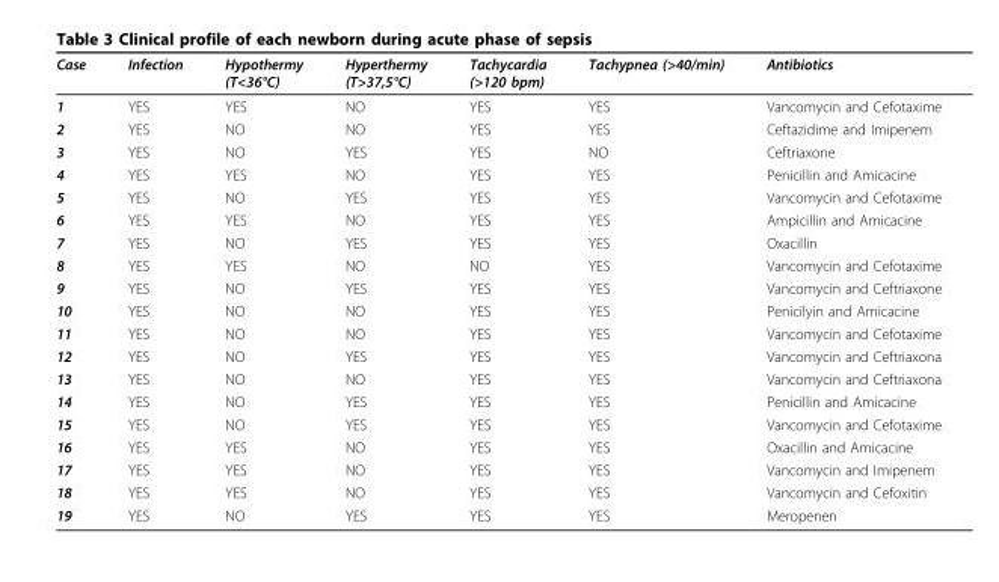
<table><thead><tr><td>Case</td><td>Infection</td><td>Hypothermy (T&lt;36°C)</td><td>Hyperthermy (T&gt;37,5°C)</td><td>Tachycardia (&gt;120 bpm)</td><td>Tachypnea (&gt;40/min)</td><td>Antibiotics</td></tr></thead><tbody><tr><td>1</td><td>YES</td><td>YES</td><td>NO</td><td>YES</td><td>YES</td><td>Vancomycin and Cefotaxime</td></tr><tr><td>2</td><td>YES</td><td>NO</td><td>NO</td><td>YES</td><td>YES</td><td>Ceftazidime and Imipenem</td></tr><tr><td>3</td><td>YES</td><td>NO</td><td>YES</td><td>YES</td><td>NO</td><td>Ceftriaxone</td></tr><tr><td>4</td><td>YES</td><td>YES</td><td>NO</td><td>YES</td><td>YES</td><td>Penicillin and Amicacine</td></tr><tr><td>5</td><td>YES</td><td>NO</td><td>YES</td><td>YES</td><td>YES</td><td>Vancomycin and Cefotaxime</td></tr><tr><td>6</td><td>YES</td><td>YES</td><td>NO</td><td>YES</td><td>YES</td><td>Ampicillin and Amicacine</td></tr><tr><td>7</td><td>YES</td><td>NO</td><td>YES</td><td>YES</td><td>YES</td><td>Oxacillin</td></tr><tr><td>8</td><td>YES</td><td>YES</td><td>NO</td><td>NO</td><td>YES</td><td>Vancomycin and Cefotaxime</td></tr><tr><td>9</td><td>YES</td><td>NO</td><td>YES</td><td>YES</td><td>YES</td><td>Vancomycin and Ceftriaxone</td></tr><tr><td>10</td><td>YES</td><td>NO</td><td>NO</td><td>YES</td><td>YES</td><td>Penicilyin and Amicacine</td></tr><tr><td>11</td><td>YES</td><td>NO</td><td>NO</td><td>YES</td><td>YES</td><td>Vancomycin and Cefotaxime</td></tr><tr><td>12</td><td>YES</td><td>NO</td><td>YES</td><td>YES</td><td>YES</td><td>Vancomycin and Ceftriaxona</td></tr><tr><td>13</td><td>YES</td><td>NO</td><td>NO</td><td>YES</td><td>YES</td><td>Vancomycin and Ceftriaxona</td></tr><tr><td>14</td><td>YES</td><td>NO</td><td>YES</td><td>YES</td><td>YES</td><td>Penicillin and Amicacine</td></tr><tr><td>15</td><td>YES</td><td>NO</td><td>YES</td><td>YES</td><td>YES</td><td>Vancomycin and Cefotaxime</td></tr><tr><td>16</td><td>YES</td><td>YES</td><td>NO</td><td>YES</td><td>YES</td><td>Oxacillin and Amicacine</td></tr><tr><td>17</td><td>YES</td><td>YES</td><td>NO</td><td>YES</td><td>YES</td><td>Vancomycin and Imipenem</td></tr><tr><td>18</td><td>YES</td><td>YES</td><td>NO</td><td>YES</td><td>YES</td><td>Vancomycin and Cefoxitin</td></tr><tr><td>19</td><td>YES</td><td>NO</td><td>YES</td><td>YES</td><td>YES</td><td>Meropenen</td></tr></tbody></table>